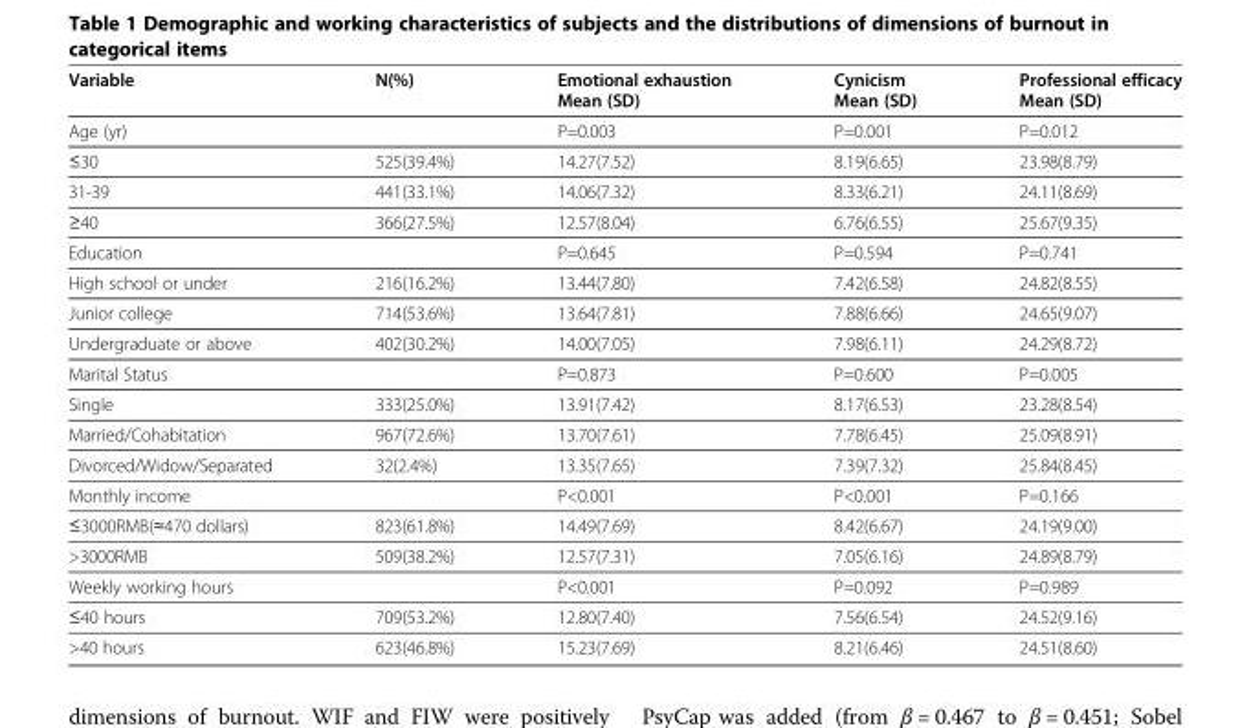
<table><thead><tr><td>Variable</td><td>N(%)</td><td>Emotional exhaustion Mean (SD)</td><td>Cynicism Mean (SD)</td><td>Professional efficacy Mean (SD)</td></tr></thead><tbody><tr><td>Age (yr)</td><td></td><td>P=0.003</td><td>P=0.001</td><td>P=0.012</td></tr><tr><td>≤30</td><td>525(39.4%)</td><td>14.27(7.52)</td><td>8.19(6.65)</td><td>23.98(8.79)</td></tr><tr><td>31-39</td><td>441(33.1%)</td><td>14.06(7.32)</td><td>8.33(6.21)</td><td>24.11(8.69)</td></tr><tr><td>≥40</td><td>366(27.5%)</td><td>12.57(8.04)</td><td>6.76(6.55)</td><td>25.67(9.35)</td></tr><tr><td>Education</td><td></td><td>P=0.645</td><td>P=0.594</td><td>P=0.741</td></tr><tr><td>High school or under</td><td>216(16.2%)</td><td>13.44(7.80)</td><td>7.42(6.58)</td><td>24.82(8.55)</td></tr><tr><td>Junior college</td><td>714(53.6%)</td><td>13.64(7.81)</td><td>7.88(6.66)</td><td>24.65(9.07)</td></tr><tr><td>Undergraduate or above</td><td>402(30.2%)</td><td>14.00(7.05)</td><td>7.98(6.11)</td><td>24.29(8.72)</td></tr><tr><td>Marital Status</td><td></td><td>P=0.873</td><td>P=0.600</td><td>P=0.005</td></tr><tr><td>Single</td><td>333(25.0%)</td><td>13.91(7.42)</td><td>8.17(6.53)</td><td>23.28(8.54)</td></tr><tr><td>Married/Cohabitation</td><td>967(72.6%)</td><td>13.70(7.61)</td><td>7.78(6.45)</td><td>25.09(8.91)</td></tr><tr><td>Divorced/Widow/Separated</td><td>32(2.4%)</td><td>13.35(7.65)</td><td>7.39(7.32)</td><td>25.84(8.45)</td></tr><tr><td>Monthly income</td><td></td><td>P&lt;0.001</td><td>P&lt;0.001</td><td>P=0.166</td></tr><tr><td>≤3000RMB(≈470 dollars)</td><td>823(61.8%)</td><td>14.49(7.69)</td><td>8.42(6.67)</td><td>24.19(9.00)</td></tr><tr><td>&gt;3000RMB</td><td>509(38.2%)</td><td>12.57(7.31)</td><td>7.05(6.16)</td><td>24.89(8.79)</td></tr><tr><td>Weekly working hours</td><td></td><td>P&lt;0.001</td><td>P=0.092</td><td>P=0.989</td></tr><tr><td>≤40 hours</td><td>709(53.2%)</td><td>12.80(7.40)</td><td>7.56(6.54)</td><td>24.52(9.16)</td></tr><tr><td>&gt;40 hours</td><td>623(46.8%)</td><td>15.23(7.69)</td><td>8.21(6.46)</td><td>24.51(8.60)</td></tr></tbody></table>